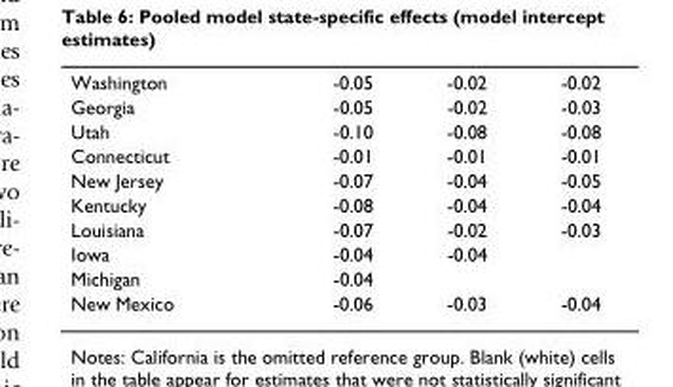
<table><tbody><tr><td>Washington</td><td>-0.05</td><td>-0.02</td><td>-0.02</td></tr><tr><td>Georgia</td><td>-0.05</td><td>-0.02</td><td>-0.03</td></tr><tr><td>Utah</td><td>-0.10</td><td>-0.08</td><td>-0.08</td></tr><tr><td>Connecticut</td><td>-0.01</td><td>-0.01</td><td>-0.01</td></tr><tr><td>New Jersey</td><td>-0.07</td><td>-0.04</td><td>-0.05</td></tr><tr><td>Kentucky</td><td>-0.08</td><td>-0.04</td><td>-0.04</td></tr><tr><td>Louisiana</td><td>-0.07</td><td>-0.02</td><td>-0.03</td></tr><tr><td>Iowa</td><td>-0.04</td><td>-0.04</td><td></td></tr><tr><td>Michigan</td><td>-0.04</td><td></td><td></td></tr><tr><td>New Mexico</td><td>-0.06</td><td>-0.03</td><td>-0.04</td></tr></tbody></table>